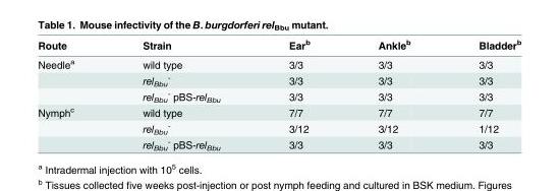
<table><thead><tr><td>Route</td><td>Strain</td><td>Ear<sup>b</sup></td><td>Ankle<sup>b</sup></td><td>Bladder<sup>b</sup></td></tr></thead><tbody><tr><td rowspan="3">Needle<sup>a</sup></td><td>wild type</td><td>3/3</td><td>3/3</td><td>3/3</td></tr><tr><td>rel<sub>Bbu</sub> <sup>-</sup></td><td>3/3</td><td>3/3</td><td>3/3</td></tr><tr><td>rel<sub>Bbu</sub> <sup>-</sup> pBS-rel<sub>Bbu</sub></td><td>3/3</td><td>3/3</td><td>3/3</td></tr><tr><td rowspan="3">Nymph<sup>c</sup></td><td>wild type</td><td>7/7</td><td>7/7</td><td>7/7</td></tr><tr><td>rel<sub>Bbu</sub> <sup>-</sup></td><td>3/12</td><td>3/12</td><td>1/12</td></tr><tr><td>rel<sub>Bbu</sub> <sup>-</sup> pBS-rel<sub>Bbu</sub></td><td>3/3</td><td>3/3</td><td>3/3</td></tr></tbody></table>